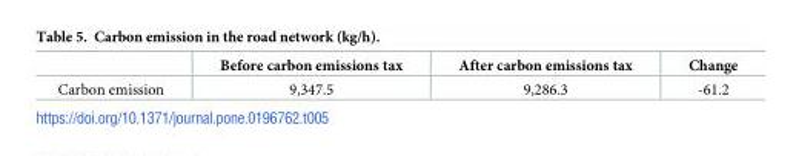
<table><thead><tr><td></td><td>Before carbon emissions tax</td><td>After carbon emissions tax</td><td>Change</td></tr></thead><tbody><tr><td>Carbon emission</td><td>9,347.5</td><td>9,286.3</td><td>-61.2</td></tr></tbody></table>